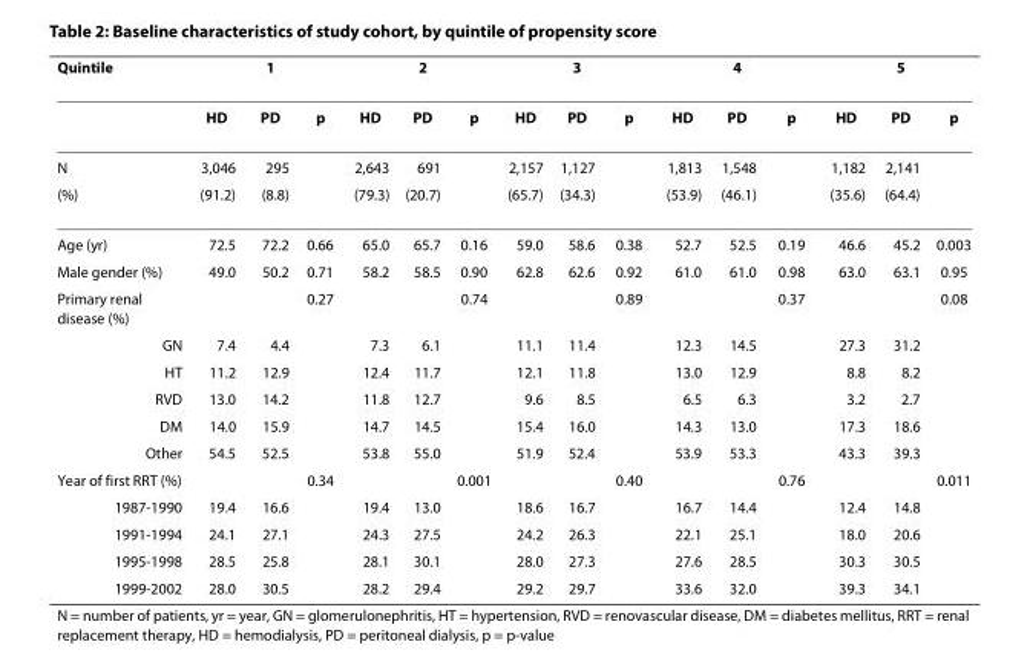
<table><thead><tr><td>Quintile</td><td></td><td>1</td><td></td><td></td><td>2</td><td></td><td></td><td>3</td><td></td><td></td><td>4</td><td></td><td></td><td>5</td><td></td></tr></thead><tbody><tr><td></td><td>HD</td><td>PD</td><td>p</td><td>HD</td><td>PD</td><td>p</td><td>HD</td><td>PD</td><td>p</td><td>HD</td><td>PD</td><td>p</td><td>HD</td><td>PD</td><td>p</td></tr><tr><td>N</td><td>3,046</td><td>295</td><td></td><td>2,643</td><td>691</td><td></td><td>2,157</td><td>1,127</td><td></td><td>1,813</td><td>1,548</td><td></td><td>1,182</td><td>2,141</td><td></td></tr><tr><td>(%)</td><td>(91.2)</td><td>(8.8)</td><td></td><td>(79.3)</td><td>(20.7)</td><td></td><td>(65.7)</td><td>(34.3)</td><td></td><td>(53.9)</td><td>(46.1)</td><td></td><td>(35.6)</td><td>(64.4)</td><td></td></tr><tr><td>Age (yr)</td><td>72.5</td><td>72.2</td><td>0.66</td><td>65.0</td><td>65.7</td><td>0.16</td><td>59.0</td><td>58.6</td><td>0.38</td><td>52.7</td><td>52.5</td><td>0.19</td><td>46.6</td><td>45.2</td><td>0.003</td></tr><tr><td>Male gender (%)</td><td>49.0</td><td>50.2</td><td>0.71</td><td>58.2</td><td>58.5</td><td>0.90</td><td>62.8</td><td>62.6</td><td>0.92</td><td>61.0</td><td>61.0</td><td>0.98</td><td>63.0</td><td>63.1</td><td>0.95</td></tr><tr><td>Primary renal disease (%)</td><td></td><td></td><td>0.27</td><td></td><td></td><td>0.74</td><td></td><td></td><td>0.89</td><td></td><td></td><td>0.37</td><td></td><td></td><td>0.08</td></tr><tr><td>GN</td><td>7.4</td><td>4.4</td><td></td><td>7.3</td><td>6.1</td><td></td><td>11.1</td><td>11.4</td><td></td><td>12.3</td><td>14.5</td><td></td><td>27.3</td><td>31.2</td><td></td></tr><tr><td>HT</td><td>11.2</td><td>12.9</td><td></td><td>12.4</td><td>11.7</td><td></td><td>12.1</td><td>11.8</td><td></td><td>13.0</td><td>12.9</td><td></td><td>8.8</td><td>8.2</td><td></td></tr><tr><td>RVD</td><td>13.0</td><td>14.2</td><td></td><td>11.8</td><td>12.7</td><td></td><td>9.6</td><td>8.5</td><td></td><td>6.5</td><td>6.3</td><td></td><td>3.2</td><td>2.7</td><td></td></tr><tr><td>DM</td><td>14.0</td><td>15.9</td><td></td><td>14.7</td><td>14.5</td><td></td><td>15.4</td><td>16.0</td><td></td><td>14.3</td><td>13.0</td><td></td><td>17.3</td><td>18.6</td><td></td></tr><tr><td>Other</td><td>54.5</td><td>52.5</td><td></td><td>53.8</td><td>55.0</td><td></td><td>51.9</td><td>52.4</td><td></td><td>53.9</td><td>53.3</td><td></td><td>43.3</td><td>39.3</td><td></td></tr><tr><td>Year of first RRT (%)</td><td></td><td></td><td>0.34</td><td></td><td></td><td>0.001</td><td></td><td></td><td>0.40</td><td></td><td></td><td>0.76</td><td></td><td></td><td>0.011</td></tr><tr><td>1987-1990</td><td>19.4</td><td>16.6</td><td></td><td>19.4</td><td>13.0</td><td></td><td>18.6</td><td>16.7</td><td></td><td>16.7</td><td>14.4</td><td></td><td>12.4</td><td>14.8</td><td></td></tr><tr><td>1991-1994</td><td>24.1</td><td>27.1</td><td></td><td>24.3</td><td>27.5</td><td></td><td>24.2</td><td>26.3</td><td></td><td>22.1</td><td>25.1</td><td></td><td>18.0</td><td>20.6</td><td></td></tr><tr><td>1995-1998</td><td>28.5</td><td>25.8</td><td></td><td>28.1</td><td>30.1</td><td></td><td>28.0</td><td>27.3</td><td></td><td>27.6</td><td>28.5</td><td></td><td>30.3</td><td>30.5</td><td></td></tr><tr><td>1999-2002</td><td>28.0</td><td>30.5</td><td></td><td>28.2</td><td>29.4</td><td></td><td>29.2</td><td>29.7</td><td></td><td>33.6</td><td>32.0</td><td></td><td>39.3</td><td>34.1</td><td></td></tr></tbody></table>